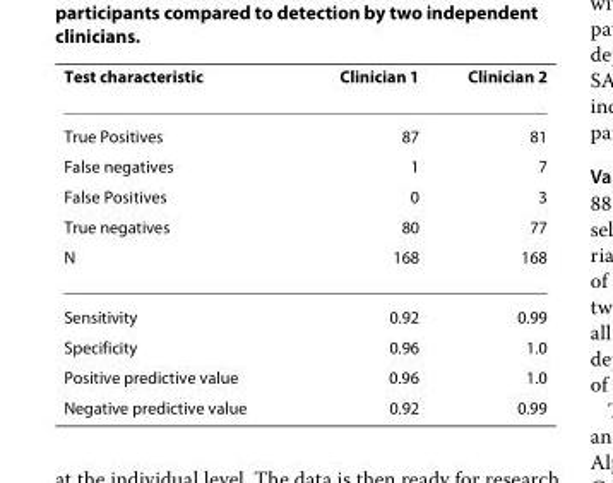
<table><thead><tr><td>Test characteristic</td><td>Clinician 1</td><td>Clinician 2</td></tr></thead><tbody><tr><td>True Positives</td><td>87</td><td>81</td></tr><tr><td>False negatives</td><td>1</td><td>7</td></tr><tr><td>False Positives</td><td>0</td><td>3</td></tr><tr><td>True negatives</td><td>80</td><td>77</td></tr><tr><td>N</td><td>168</td><td>168</td></tr><tr><td>Sensitivity</td><td>0.92</td><td>0.99</td></tr><tr><td>Specificity</td><td>0.96</td><td>1.0</td></tr><tr><td>Positive predictive value</td><td>0.96</td><td>1.0</td></tr><tr><td>Negative predictive value</td><td>0.92</td><td>0.99</td></tr></tbody></table>